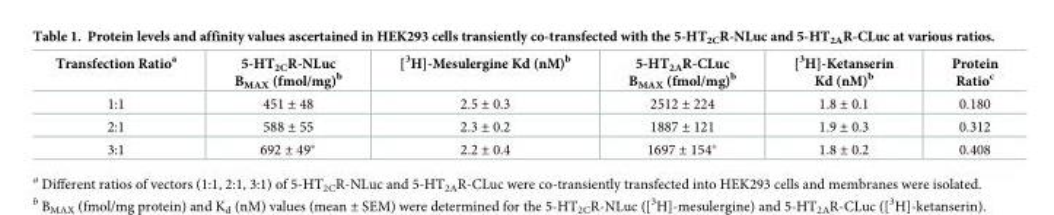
<table><thead><tr><td>Transfection Ratio<sup>a</sup></td><td>5-HT<sub>2C</sub>R-NLuc B<sub>MAX</sub> (fmol/mg)<sup>b</sup></td><td>[<sup>3</sup>H]-Mesulergine Kd (nM)<sup>b</sup></td><td>5-HT<sub>2A</sub>R-CLuc B<sub>MAX</sub> (fmol/mg)<sup>b</sup></td><td>[<sup>3</sup>H]-Ketanserin Kd (nM)<sup>b</sup></td><td>Protein Ratio<sup>c</sup></td></tr></thead><tbody><tr><td>1:1</td><td>451 ± 48</td><td>2.5 ± 0.3</td><td>2512 ± 224</td><td>1.8 ± 0.1</td><td>0.180</td></tr><tr><td>2:1</td><td>588 ± 55</td><td>2.3 ± 0.2</td><td>1887 ± 121</td><td>1.9 ± 0.3</td><td>0.312</td></tr><tr><td>3:1</td><td>692 ± 49*</td><td>2.2 ± 0.4</td><td>1697 ± 154*</td><td>1.8 ± 0.2</td><td>0.408</td></tr></tbody></table>